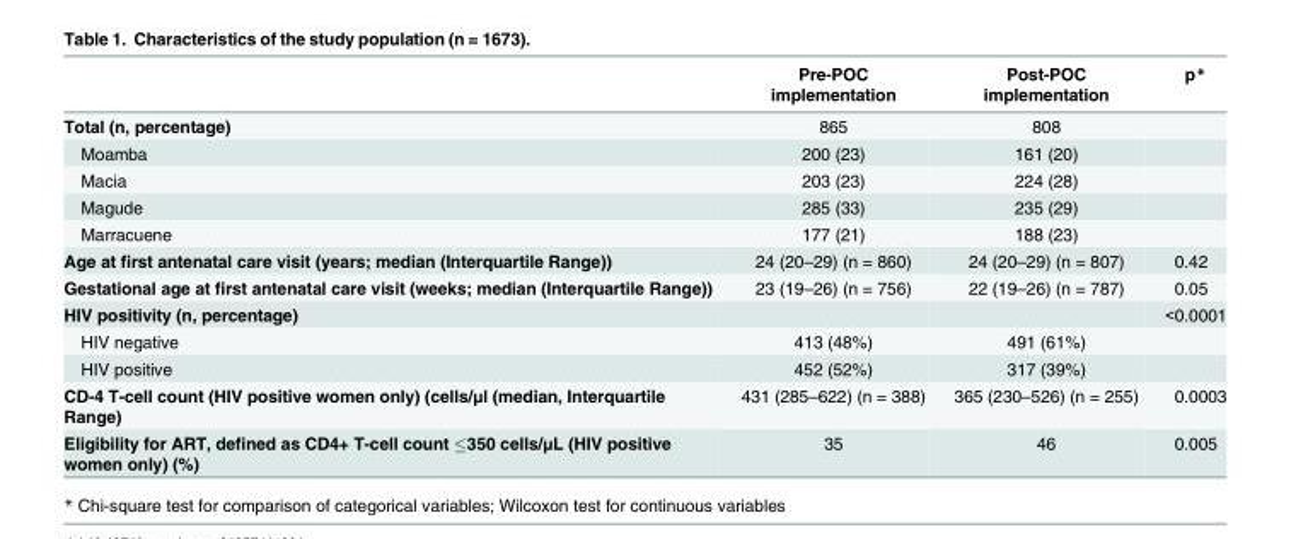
<table><thead><tr><td></td><td>Pre-POC implementation</td><td>Post-POC implementation</td><td>p*</td></tr></thead><tbody><tr><td>Total (n, percentage)</td><td>865</td><td>808</td><td></td></tr><tr><td>Moamba</td><td>200 (23)</td><td>161 (20)</td><td></td></tr><tr><td>Macia</td><td>203 (23)</td><td>224 (28)</td><td></td></tr><tr><td>Magude</td><td>285 (33)</td><td>235 (29)</td><td></td></tr><tr><td>Marracuene</td><td>177 (21)</td><td>188 (23)</td><td></td></tr><tr><td>Age at first antenatal care visit (years; median (Interquartile Range))</td><td>24 (20–29) (n = 860)</td><td>24 (20–29) (n = 807)</td><td>0.42</td></tr><tr><td>Gestational age at first antenatal care visit (weeks; median (Interquartile Range))</td><td>23 (19–26) (n = 756)</td><td>22 (19–26) (n = 787)</td><td>0.05</td></tr><tr><td>HIV positivity (n, percentage)</td><td></td><td></td><td>&lt;0.0001</td></tr><tr><td>HIV negative</td><td>413 (48%)</td><td>491 (61%)</td><td></td></tr><tr><td>HIV positive</td><td>452 (52%)</td><td>317 (39%)</td><td></td></tr><tr><td>CD-4 T-cell count (HIV positive women only) (cells/μl (median, Interquartile Range)</td><td>431 (285–622) (n = 388)</td><td>365 (230–526) (n = 255)</td><td>0.0003</td></tr><tr><td>Eligibility for ART, defined as CD4+ T-cell count ≤350 cells/μL (HIV positive women only) (%)</td><td>35</td><td>46</td><td>0.005</td></tr></tbody></table>